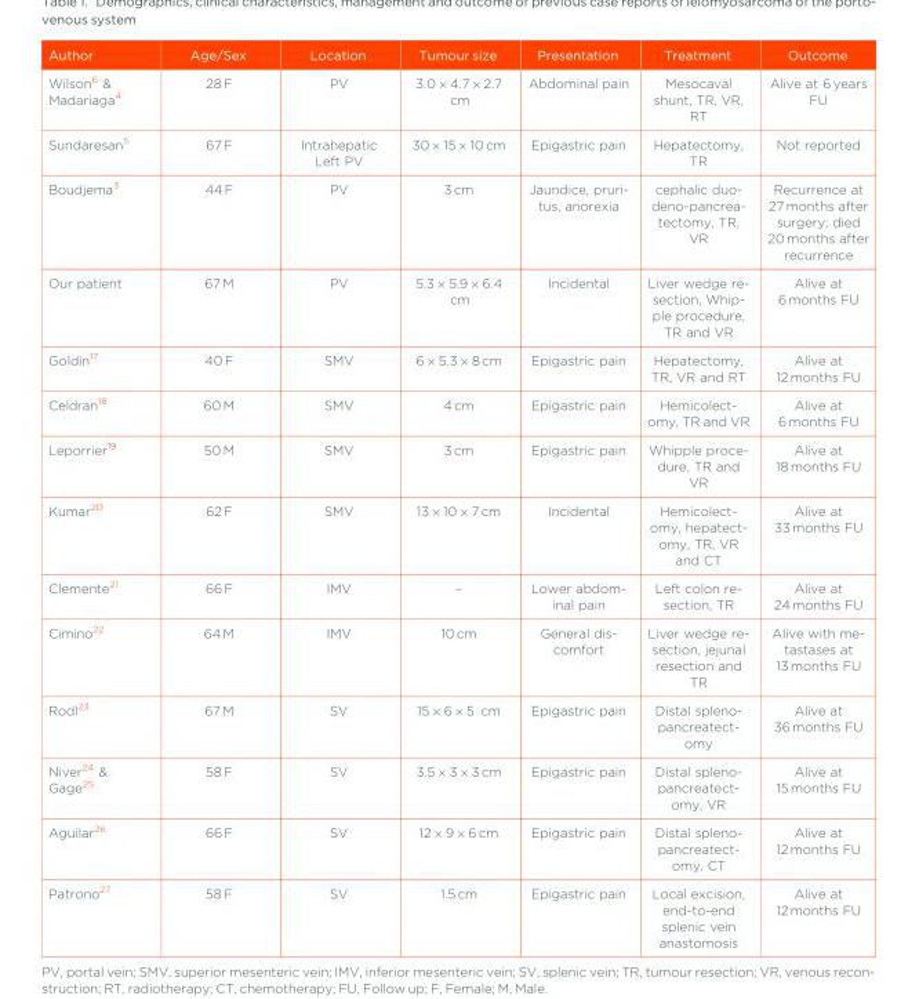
<table><thead><tr><td>Author</td><td>Age/Sex</td><td>Location</td><td>Tumour size</td><td>Presentation</td><td>Treatment</td><td>Outcome</td></tr></thead><tbody><tr><td>Wilson<sup>6</sup> &amp; Madariaga<sup>4</sup></td><td>28 F</td><td>PV</td><td>3.0 × 4.7 × 2.7 cm</td><td>Abdominal pain</td><td>Mesocaval shunt, TR, VR, RT</td><td>Alive at 6 years FU</td></tr><tr><td>Sundaresan<sup>5</sup></td><td>67 F</td><td>Intrahepatic Left PV</td><td>30 × 15 × 10 cm</td><td>Epigastric pain</td><td>Hepatectomy, TR</td><td>Not reported</td></tr><tr><td>Boudjema<sup>3</sup></td><td>44 F</td><td>PV</td><td>3 cm</td><td>Jaundice, pruri- tus, anorexia</td><td>cephalic duo- deno-pancrea- tectomy, TR, VR</td><td>Recurrence at 27 months after surgery; died 20 months after recurrence</td></tr><tr><td>Our patient</td><td>67 M</td><td>PV</td><td>5.3 × 5.9 × 6.4 cm</td><td>Incidental</td><td>Liver wedge re- section, Whip- ple procedure, TR and VR</td><td>Alive at 6 months FU</td></tr><tr><td>Goldin<sup>17</sup></td><td>40 F</td><td>SMV</td><td>6 × 5.3 × 8 cm</td><td>Epigastric pain</td><td>Hepatectomy, TR, VR and RT</td><td>Alive at 12 months FU</td></tr><tr><td>Celdran<sup>18</sup></td><td>60 M</td><td>SMV</td><td>4 cm</td><td>Epigastric pain</td><td>Hemicolect- omy, TR and VR</td><td>Alive at 6 months FU</td></tr><tr><td>Leporrier<sup>19</sup></td><td>50 M</td><td>SMV</td><td>3 cm</td><td>Epigastric pain</td><td>Whipple proce- dure, TR and VR</td><td>Alive at 18 months FU</td></tr><tr><td>Kumar<sup>20</sup></td><td>62 F</td><td>SMV</td><td>13 × 10 × 7 cm</td><td>Incidental</td><td>Hemicolect- omy, hepatect- omy, TR, VR and CT</td><td>Alive at 33 months FU</td></tr><tr><td>Clemente<sup>21</sup></td><td>66 F</td><td>IMV</td><td>–</td><td>Lower abdom- inal pain</td><td>Left colon re- section, TR</td><td>Alive at 24 months FU</td></tr><tr><td>Cimino<sup>22</sup></td><td>64 M</td><td>IMV</td><td>10 cm</td><td>General dis- comfort</td><td>Liver wedge re- section, jejunal resection and TR</td><td>Alive with me- tastases at 13 months FU</td></tr><tr><td>Rodl<sup>23</sup></td><td>67 M</td><td>SV</td><td>15 × 6 × 5 cm</td><td>Epigastric pain</td><td>Distal spleno- pancreatect- omy</td><td>Alive at 36 months FU</td></tr><tr><td>Niver<sup>24</sup> &amp; Gage<sup>25</sup></td><td>58 F</td><td>SV</td><td>3.5 × 3 × 3 cm</td><td>Epigastric pain</td><td>Distal spleno- pancreatect- omy, VR</td><td>Alive at 15 months FU</td></tr><tr><td>Aguilar<sup>26</sup></td><td>66 F</td><td>SV</td><td>12 × 9 × 6 cm</td><td>Epigastric pain</td><td>Distal spleno- pancreatect- omy, CT</td><td>Alive at 12 months FU</td></tr><tr><td>Patrono<sup>27</sup></td><td>58 F</td><td>SV</td><td>1.5 cm</td><td>Epigastric pain</td><td>Local excision, end-to-end splenic vein anastomosis</td><td>Alive at 12 months FU</td></tr></tbody></table>